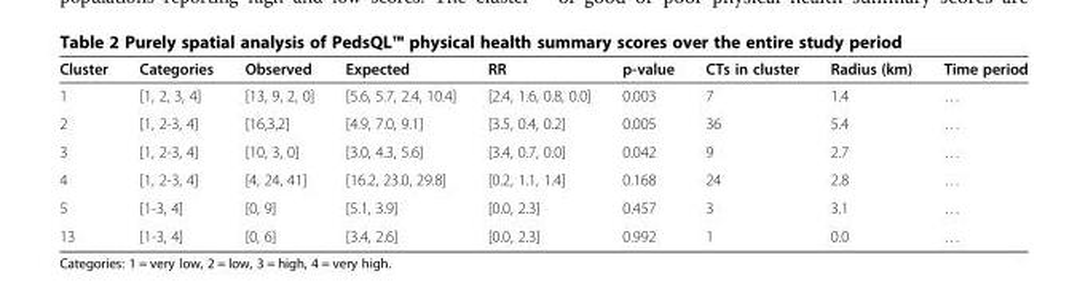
<table><thead><tr><td>Cluster</td><td>Categories</td><td>Observed</td><td>Expected</td><td>RR</td><td>p-value</td><td>CTs in cluster</td><td>Radius (km)</td><td>Time period</td></tr></thead><tbody><tr><td>1</td><td>[1, 2, 3, 4]</td><td>[13, 9, 2, 0]</td><td>[5.6, 5.7, 2.4, 10.4]</td><td>[2.4, 1.6, 0.8, 0.0]</td><td>0.003</td><td>7</td><td>1.4</td><td>…</td></tr><tr><td>2</td><td>[1, 2-3, 4]</td><td>[16,3,2]</td><td>[4.9, 7.0, 9.1]</td><td>[3.5, 0.4, 0.2]</td><td>0.005</td><td>36</td><td>5.4</td><td>…</td></tr><tr><td>3</td><td>[1, 2-3, 4]</td><td>[10, 3, 0]</td><td>[3.0, 4.3, 5.6]</td><td>[3.4, 0.7, 0.0]</td><td>0.042</td><td>9</td><td>2.7</td><td>…</td></tr><tr><td>4</td><td>[1, 2-3, 4]</td><td>[4, 24, 41]</td><td>[16.2, 23.0, 29.8]</td><td>[0.2, 1.1, 1.4]</td><td>0.168</td><td>24</td><td>2.8</td><td>…</td></tr><tr><td>5</td><td>[1-3, 4]</td><td>[0, 9]</td><td>[5.1, 3.9]</td><td>[0.0, 2.3]</td><td>0.457</td><td>3</td><td>3.1</td><td>…</td></tr><tr><td>13</td><td>[1-3, 4]</td><td>[0, 6]</td><td>[3.4, 2.6]</td><td>[0.0, 2.3]</td><td>0.992</td><td>1</td><td>0.0</td><td>…</td></tr></tbody></table>